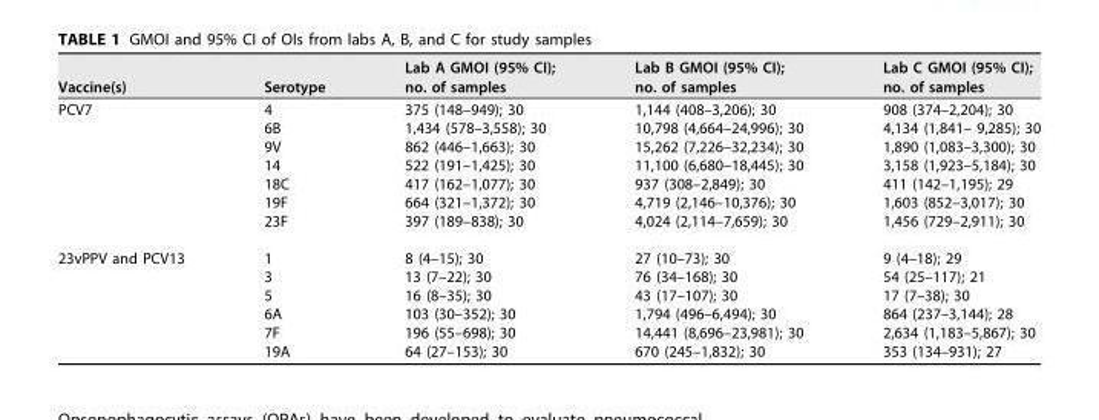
<table><thead><tr><td>Vaccine(s)</td><td>Serotype</td><td>Lab A GMOI (95% CI); no. of samples</td><td>Lab B GMOI (95% CI); no. of samples</td><td>Lab C GMOI (95% CI); no. of samples</td></tr></thead><tbody><tr><td rowspan="7">PCV7</td><td>4</td><td>375 (148–949); 30</td><td>1,144 (408–3,206); 30</td><td>908 (374–2,204); 30</td></tr><tr><td>6B</td><td>1,434 (578–3,558); 30</td><td>10,798 (4,664–24,996); 30</td><td>4,134 (1,841– 9,285); 30</td></tr><tr><td>9V</td><td>862 (446–1,663); 30</td><td>15,262 (7,226–32,234); 30</td><td>1,890 (1,083–3,300); 30</td></tr><tr><td>14</td><td>522 (191–1,425); 30</td><td>11,100 (6,680–18,445); 30</td><td>3,158 (1,923–5,184); 30</td></tr><tr><td>18C</td><td>417 (162–1,077); 30</td><td>937 (308–2,849); 30</td><td>411 (142–1,195); 29</td></tr><tr><td>19F</td><td>664 (321–1,372); 30</td><td>4,719 (2,146–10,376); 30</td><td>1,603 (852–3,017); 30</td></tr><tr><td>23F</td><td>397 (189–838); 30</td><td>4,024 (2,114–7,659); 30</td><td>1,456 (729–2,911); 30</td></tr><tr><td rowspan="6">23vPPV and PCV13</td><td>1</td><td>8 (4–15); 30</td><td>27 (10–73); 30</td><td>9 (4–18); 29</td></tr><tr><td>3</td><td>13 (7–22); 30</td><td>76 (34–168); 30</td><td>54 (25–117); 21</td></tr><tr><td>5</td><td>16 (8–35); 30</td><td>43 (17–107); 30</td><td>17 (7–38); 30</td></tr><tr><td>6A</td><td>103 (30–352); 30</td><td>1,794 (496–6,494); 30</td><td>864 (237–3,144); 28</td></tr><tr><td>7F</td><td>196 (55–698); 30</td><td>14,441 (8,696–23,981); 30</td><td>2,634 (1,183–5,867); 30</td></tr><tr><td>19A</td><td>64 (27–153); 30</td><td>670 (245–1,832); 30</td><td>353 (134–931); 27</td></tr></tbody></table>